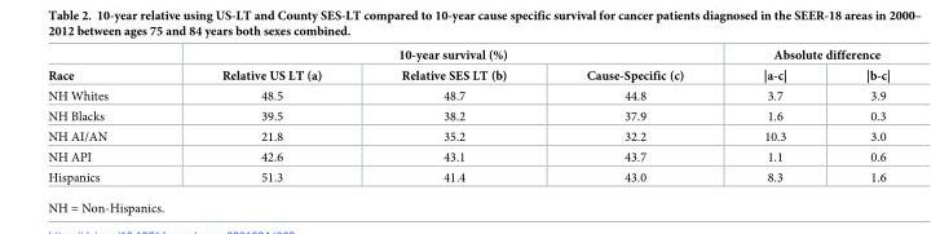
<table><thead><tr><td rowspan="2">Race</td><td colspan="3">10-year survival (%)</td><td colspan="2">Absolute difference</td></tr><tr><td>Relative US LT (a)</td><td>Relative SES LT (b)</td><td>Cause-Specific (c)</td><td>|a-c|</td><td>|b-c|</td></tr></thead><tbody><tr><td>NH Whites</td><td>48.5</td><td>48.7</td><td>44.8</td><td>3.7</td><td>3.9</td></tr><tr><td>NH Blacks</td><td>39.5</td><td>38.2</td><td>37.9</td><td>1.6</td><td>0.3</td></tr><tr><td>NH AI/AN</td><td>21.8</td><td>35.2</td><td>32.2</td><td>10.3</td><td>3.0</td></tr><tr><td>NH API</td><td>42.6</td><td>43.1</td><td>43.7</td><td>1.1</td><td>0.6</td></tr><tr><td>Hispanics</td><td>51.3</td><td>41.4</td><td>43.0</td><td>8.3</td><td>1.6</td></tr></tbody></table>